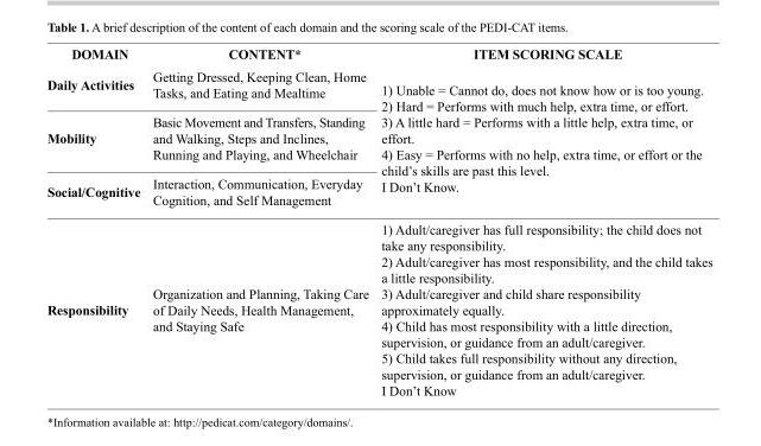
<table><thead><tr><td>DOMAIN</td><td>CONTENT*</td><td>ITEM SCORING SCALE</td></tr></thead><tbody><tr><td>Daily Activities</td><td>Getting Dressed, Keeping Clean, Home Tasks, and Eating and Mealtime</td><td rowspan="3">1) Unable = Cannot do, does not know how or is too young. 2) Hard = Performs with much help, extra time, or effort. 3) A little hard = Performs with a little help, extra time, or effort. 4) Easy = Performs with no help, extra time, or effort or the child’s skills are past this level. I Don’t Know.</td></tr><tr><td>Mobility</td><td>Basic Movement and Transfers, Standing and Walking, Steps and Inclines, Running and Playing, and Wheelchair</td></tr><tr><td>Social/Cognitive</td><td>Interaction, Communication, Everyday Cognition, and Self Management</td></tr><tr><td>Responsibility</td><td>Organization and Planning, Taking Care of Daily Needs, Health Management, and Staying Safe</td><td>1) Adult/caregiver has full responsibility; the child does not take any responsibility. 2) Adult/caregiver has most responsibility, and the child takes a little responsibility. 3) Adult/caregiver and child share responsibility approximately equally. 4) Child has most responsibility with a little direction, supervision, or guidance from an adult/caregiver. 5) Child takes full responsibility without any direction, supervision, or guidance from an adult/caregiver. I Don’t Know</td></tr></tbody></table>